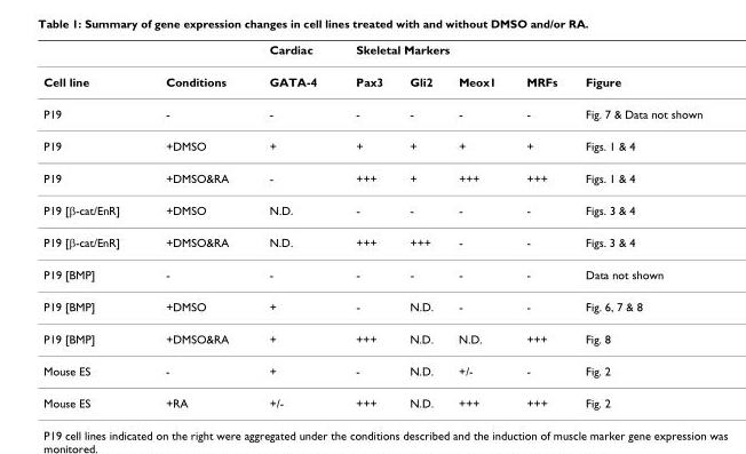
<table><thead><tr><td rowspan="2">Cell line</td><td rowspan="2">Conditions</td><td rowspan="2">Cardiac GATA-4</td><td colspan="4">Skeletal Markers</td><td rowspan="2">Figure</td></tr><tr><td>Pax3</td><td>Gli2</td><td>Meox1</td><td>MRFs</td></tr></thead><tbody><tr><td>P19</td><td>-</td><td>-</td><td>-</td><td>-</td><td>-</td><td>-</td><td>Fig. 7 &amp; Data not shown</td></tr><tr><td>P19</td><td>+DMSO</td><td>+</td><td>+</td><td>+</td><td>+</td><td>+</td><td>Figs. 1 &amp; 4</td></tr><tr><td>P19</td><td>+DMSO&amp;RA</td><td>-</td><td>+++</td><td>+</td><td>+++</td><td>+++</td><td>Figs. 1 &amp; 4</td></tr><tr><td>P19 [β-cat/EnR]</td><td>+DMSO</td><td>N.D.</td><td>-</td><td>-</td><td>-</td><td>-</td><td>Figs. 3 &amp; 4</td></tr><tr><td>P19 [β-cat/EnR]</td><td>+DMSO&amp;RA</td><td>N.D.</td><td>+++</td><td>+++</td><td>-</td><td>-</td><td>Figs. 3 &amp; 4</td></tr><tr><td>P19 [BMP]</td><td>-</td><td>-</td><td>-</td><td>-</td><td>-</td><td>-</td><td>Data not shown</td></tr><tr><td>P19 [BMP]</td><td>+DMSO</td><td>+</td><td>-</td><td>N.D.</td><td>-</td><td>-</td><td>Fig. 6, 7 &amp; 8</td></tr><tr><td>P19 [BMP]</td><td>+DMSO&amp;RA</td><td>+</td><td>+++</td><td>N.D.</td><td>N.D.</td><td>+++</td><td>Fig. 8</td></tr><tr><td>Mouse ES</td><td>-</td><td>+</td><td>-</td><td>N.D.</td><td>+/-</td><td>-</td><td>Fig. 2</td></tr><tr><td>Mouse ES</td><td>+RA</td><td>+/-</td><td>+++</td><td>N.D.</td><td>+++</td><td>+++</td><td>Fig. 2</td></tr></tbody></table>